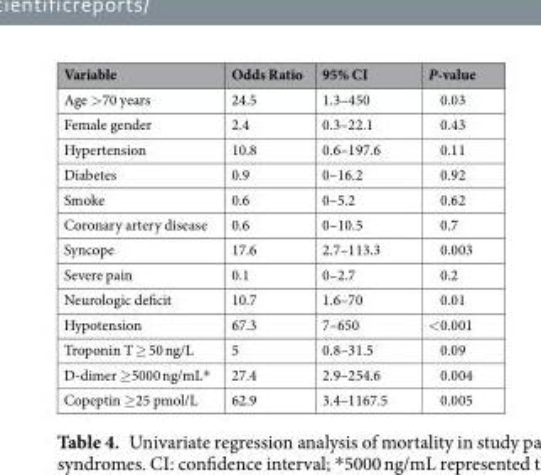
<table><thead><tr><td>Variable</td><td>Odds Ratio</td><td>95% CI</td><td>P-value</td></tr></thead><tbody><tr><td>Age &gt;70 years</td><td>24.5</td><td>1.3–450</td><td>0.03</td></tr><tr><td>Female gender</td><td>2.4</td><td>0.3–22.1</td><td>0.43</td></tr><tr><td>Hypertension</td><td>10.8</td><td>0.6–197.6</td><td>0.11</td></tr><tr><td>Diabetes</td><td>0.9</td><td>0–16.2</td><td>0.92</td></tr><tr><td>Smoke</td><td>0.6</td><td>0–5.2</td><td>0.62</td></tr><tr><td>Coronary artery disease</td><td>0.6</td><td>0–10.5</td><td>0.7</td></tr><tr><td>Syncope</td><td>17.6</td><td>2.7–113.3</td><td>0.003</td></tr><tr><td>Severe pain</td><td>0.1</td><td>0–2.7</td><td>0.2</td></tr><tr><td>Neurologic deficit</td><td>10.7</td><td>1.6–70</td><td>0.01</td></tr><tr><td>Hypotension</td><td>67.3</td><td>7–650</td><td>&lt;0.001</td></tr><tr><td>Troponin T ≥ 50 ng/L</td><td>5</td><td>0.8–31.5</td><td>0.09</td></tr><tr><td>D-dimer ≥5000 ng/mL*</td><td>27.4</td><td>2.9–254.6</td><td>0.004</td></tr><tr><td>Copeptin ≥25 pmol/L</td><td>62.9</td><td>3.4–1167.5</td><td>0.005</td></tr></tbody></table>